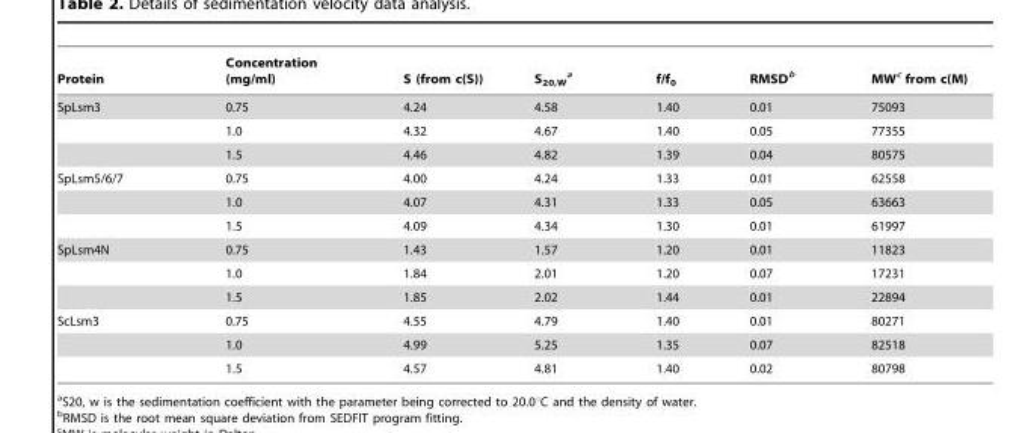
<table><thead><tr><td>Protein</td><td>Concentration (mg/ml)</td><td>S (from c(S))</td><td>S<sub>20,W</sub> a</td><td>f/f<sub>0</sub></td><td>RMSD<sup>b</sup></td><td>MW<sup>c</sup> from c(M)</td></tr></thead><tbody><tr><td rowspan="3">SpLsm3</td><td>0.75</td><td>4.24</td><td>4.58</td><td>1.40</td><td>0.01</td><td>75093</td></tr><tr><td>1.0</td><td>4.32</td><td>4.67</td><td>1.40</td><td>0.05</td><td>77355</td></tr><tr><td>1.5</td><td>4.46</td><td>4.82</td><td>1.39</td><td>0.04</td><td>80575</td></tr><tr><td rowspan="3">SpLsm5/6/7</td><td>0.75</td><td>4.00</td><td>4.24</td><td>1.33</td><td>0.01</td><td>62558</td></tr><tr><td>1.0</td><td>4.07</td><td>4.31</td><td>1.33</td><td>0.05</td><td>63663</td></tr><tr><td>1.5</td><td>4.09</td><td>4.34</td><td>1.30</td><td>0.01</td><td>61997</td></tr><tr><td rowspan="3">SpLsm4N</td><td>0.75</td><td>1.43</td><td>1.57</td><td>1.20</td><td>0.01</td><td>11823</td></tr><tr><td>1.0</td><td>1.84</td><td>2.01</td><td>1.20</td><td>0.07</td><td>17231</td></tr><tr><td>1.5</td><td>1.85</td><td>2.02</td><td>1.44</td><td>0.01</td><td>22894</td></tr><tr><td rowspan="3">ScLsm3</td><td>0.75</td><td>4.55</td><td>4.79</td><td>1.40</td><td>0.01</td><td>80271</td></tr><tr><td>1.0</td><td>4.99</td><td>5.25</td><td>1.35</td><td>0.07</td><td>82518</td></tr><tr><td>1.5</td><td>4.57</td><td>4.81</td><td>1.40</td><td>0.02</td><td>80798</td></tr></tbody></table>